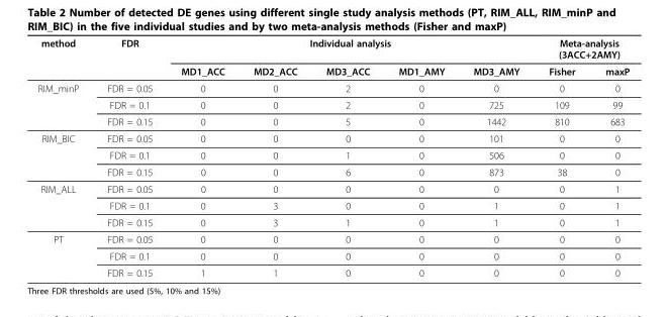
<table><thead><tr><td rowspan="2">method</td><td rowspan="2">FDR</td><td colspan="5">Individual analysis</td><td colspan="2">Meta-analysis (3ACC+2AMY)</td></tr><tr><td>MD1_ACC</td><td>MD2_ACC</td><td>MD3_ACC</td><td>MD1_AMY</td><td>MD3_AMY</td><td>Fisher</td><td>maxP</td></tr></thead><tbody><tr><td rowspan="3">RIM_minP</td><td>FDR = 0.05</td><td>0</td><td>0</td><td>2</td><td>0</td><td>0</td><td>0</td><td>0</td></tr><tr><td>FDR = 0.1</td><td>0</td><td>0</td><td>2</td><td>0</td><td>725</td><td>109</td><td>99</td></tr><tr><td>FDR = 0.15</td><td>0</td><td>0</td><td>5</td><td>0</td><td>1442</td><td>810</td><td>683</td></tr><tr><td rowspan="3">RIM_BIC</td><td>FDR = 0.05</td><td>0</td><td>0</td><td>0</td><td>0</td><td>101</td><td>0</td><td>0</td></tr><tr><td>FDR = 0.1</td><td>0</td><td>0</td><td>1</td><td>0</td><td>506</td><td>0</td><td>0</td></tr><tr><td>FDR = 0.15</td><td>0</td><td>0</td><td>6</td><td>0</td><td>873</td><td>38</td><td>0</td></tr><tr><td rowspan="3">RIM_ALL</td><td>FDR = 0.05</td><td>0</td><td>0</td><td>0</td><td>0</td><td>0</td><td>0</td><td>1</td></tr><tr><td>FDR = 0.1</td><td>0</td><td>3</td><td>0</td><td>0</td><td>1</td><td>0</td><td>1</td></tr><tr><td>FDR = 0.15</td><td>0</td><td>3</td><td>1</td><td>0</td><td>1</td><td>0</td><td>1</td></tr><tr><td rowspan="3">PT</td><td>FDR = 0.05</td><td>0</td><td>0</td><td>0</td><td>0</td><td>0</td><td>0</td><td>0</td></tr><tr><td>FDR = 0.1</td><td>0</td><td>0</td><td>0</td><td>0</td><td>0</td><td>0</td><td>0</td></tr><tr><td>FDR = 0.15</td><td>1</td><td>1</td><td>0</td><td>0</td><td>0</td><td>0</td><td>0</td></tr></tbody></table>